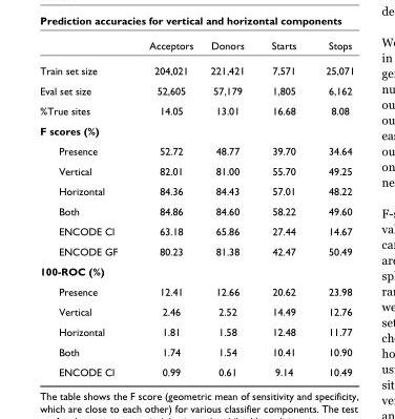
<table><thead><tr><td></td><td>Acceptors</td><td>Donors</td><td>Starts</td><td>Stops</td></tr></thead><tbody><tr><td>Train set size</td><td>204,021</td><td>221,421</td><td>7,571</td><td>25,071</td></tr><tr><td>Eval set size</td><td>52,605</td><td>57,179</td><td>1,805</td><td>6,162</td></tr><tr><td>%True sites</td><td>14.05</td><td>13.01</td><td>16.68</td><td>8.08</td></tr><tr><td colspan="5">F scores (%)</td></tr><tr><td>Presence</td><td>52.72</td><td>48.77</td><td>39.70</td><td>34.64</td></tr><tr><td>Vertical</td><td>82.01</td><td>81.00</td><td>55.70</td><td>49.25</td></tr><tr><td>Horizontal</td><td>84.36</td><td>84.43</td><td>57.01</td><td>48.22</td></tr><tr><td>Both</td><td>84.86</td><td>84.60</td><td>58.22</td><td>49.60</td></tr><tr><td>ENCODE Cl</td><td>63.18</td><td>65.86</td><td>27.44</td><td>14.67</td></tr><tr><td>ENCODE GF</td><td>80.23</td><td>81.38</td><td>42.47</td><td>50.49</td></tr><tr><td colspan="5">100-ROC (%)</td></tr><tr><td>Presence</td><td>12.41</td><td>12.66</td><td>20.62</td><td>23.98</td></tr><tr><td>Vertical</td><td>2.46</td><td>2.52</td><td>14.49</td><td>12.76</td></tr><tr><td>Horizontal</td><td>1.81</td><td>1.58</td><td>12.48</td><td>11.77</td></tr><tr><td>Both</td><td>1.74</td><td>1.54</td><td>10.41</td><td>10.90</td></tr><tr><td>ENCODE Cl</td><td>0.99</td><td>0.61</td><td>9.14</td><td>10.49</td></tr></tbody></table>